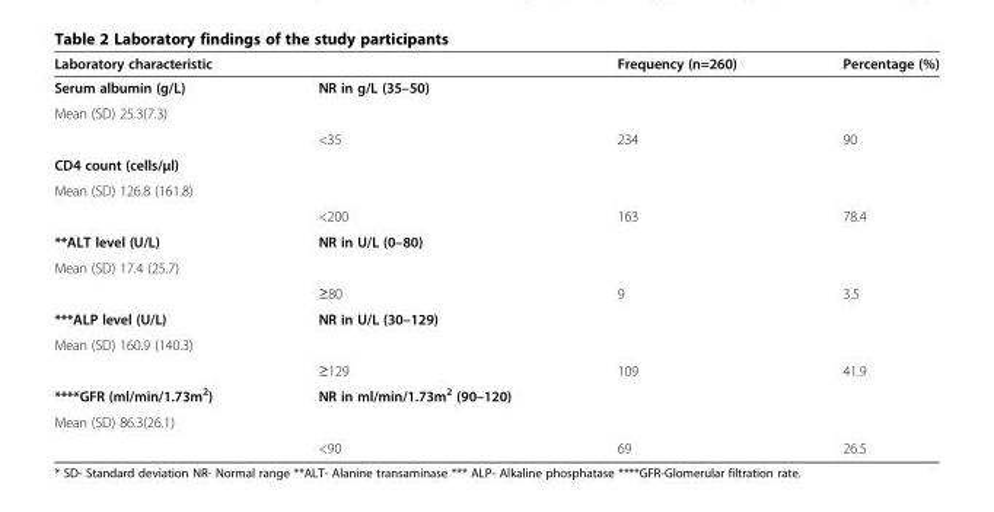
<table><thead><tr><td>Laboratory characteristic</td><td></td><td>Frequency (n=260)</td><td>Percentage (%)</td></tr></thead><tbody><tr><td>Serum albumin (g/L)</td><td rowspan="2">NR in g/L (35–50)</td><td rowspan="2"></td><td rowspan="2"></td></tr><tr><td rowspan="2">Mean (SD) 25.3(7.3)</td></tr><tr><td>&lt;35</td><td>234</td><td>90</td></tr><tr><td>CD4 count (cells/μl)</td><td rowspan="2"></td><td rowspan="2"></td><td rowspan="2"></td></tr><tr><td rowspan="2">Mean (SD) 126.8 (161.8)</td></tr><tr><td>&lt;200</td><td>163</td><td>78.4</td></tr><tr><td>**ALT level (U/L)</td><td rowspan="2">NR in U/L (0–80)</td><td rowspan="2"></td><td rowspan="2"></td></tr><tr><td rowspan="2">Mean (SD) 17.4 (25.7)</td></tr><tr><td>≥80</td><td>9</td><td>3.5</td></tr><tr><td>***ALP level (U/L)</td><td rowspan="2">NR in U/L (30–129)</td><td rowspan="2"></td><td rowspan="2"></td></tr><tr><td rowspan="2">Mean (SD) 160.9 (140.3)</td></tr><tr><td>≥129</td><td>109</td><td>41.9</td></tr><tr><td>****GFR (ml/min/1.73m<sup>2</sup>)</td><td rowspan="2">NR in ml/min/1.73m<sup>2</sup> (90–120)</td><td rowspan="2"></td><td rowspan="2"></td></tr><tr><td rowspan="2">Mean (SD) 86.3(26.1)</td></tr><tr><td>&lt;90</td><td>69</td><td>26.5</td></tr></tbody></table>